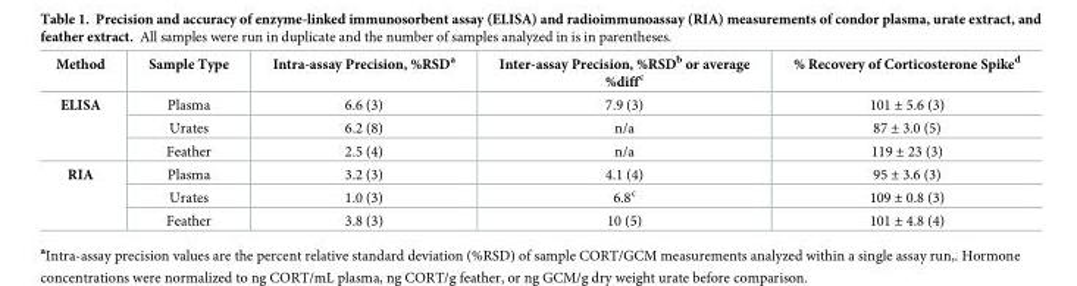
<table><thead><tr><td>Method</td><td>Sample Type</td><td>Intra-assay Precision, %RSD<sup>a</sup></td><td>Inter-assay Precision, %RSD<sup>b</sup> or average %diff<sup>c</sup></td><td>% Recovery of Corticosterone Spike<sup>d</sup></td></tr></thead><tbody><tr><td rowspan="3">ELISA</td><td>Plasma</td><td>6.6 (3)</td><td>7.9 (3)</td><td>101 ± 5.6 (3)</td></tr><tr><td>Urates</td><td>6.2 (8)</td><td>n/a</td><td>87 ± 3.0 (5)</td></tr><tr><td>Feather</td><td>2.5 (4)</td><td>n/a</td><td>119 ± 23 (3)</td></tr><tr><td rowspan="3">RIA</td><td>Plasma</td><td>3.2 (3)</td><td>4.1 (4)</td><td>95 ± 3.6 (3)</td></tr><tr><td>Urates</td><td>1.0 (3)</td><td>6.8<sup>c</sup></td><td>109 ± 0.8 (3)</td></tr><tr><td>Feather</td><td>3.8 (3)</td><td>10 (5)</td><td>101 ± 4.8 (4)</td></tr></tbody></table>